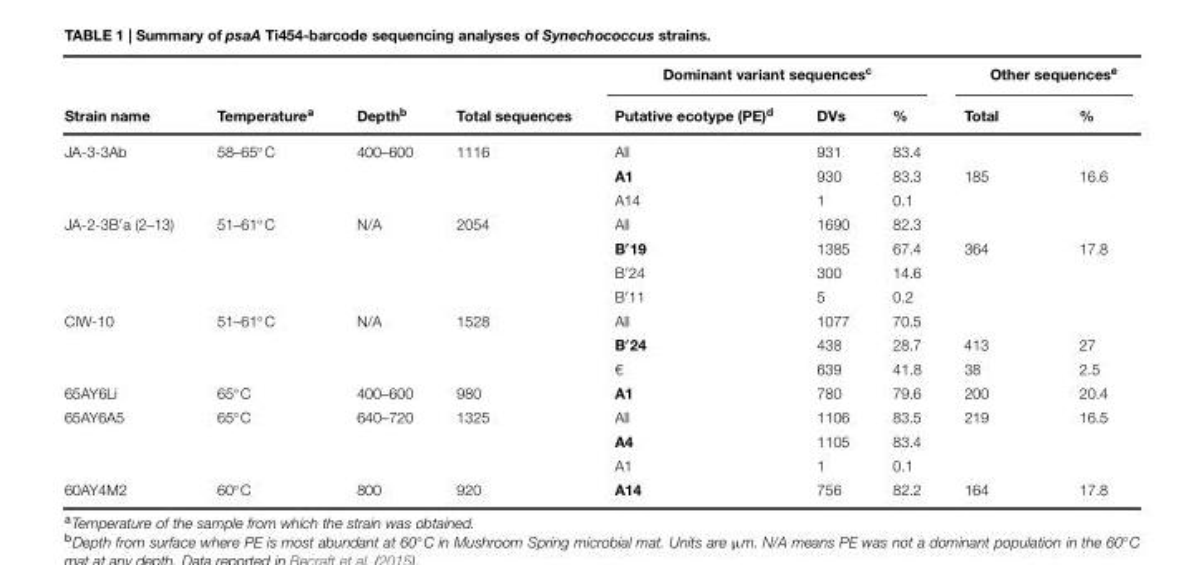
<table><thead><tr><td rowspan="2">Strain name</td><td rowspan="2">Temperature<sup>a</sup></td><td rowspan="2">Depth<sup>b</sup></td><td rowspan="2">Total sequences</td><td colspan="3">Dominant variant sequences<sup>c</sup></td><td colspan="2">Other sequences<sup>e</sup></td></tr><tr><td>Putative ecotype (PE)<sup>d</sup></td><td>DVs</td><td>%</td><td>Total</td><td>%</td></tr></thead><tbody><tr><td rowspan="3">JA-3-3Ab</td><td>58–65◦C</td><td>400–600</td><td>1116</td><td>All</td><td>931</td><td>83.4</td><td></td><td></td></tr><tr><td></td><td></td><td></td><td>A1</td><td>930</td><td>83.3</td><td>185</td><td>16.6</td></tr><tr><td></td><td></td><td></td><td>A14</td><td>1</td><td>0.1</td><td></td><td></td></tr><tr><td rowspan="4">JA-2-3B′a (2–13)</td><td>51–61◦C</td><td>N/A</td><td>2054</td><td>All</td><td>1690</td><td>82.3</td><td></td><td></td></tr><tr><td></td><td></td><td></td><td>B′19</td><td>1385</td><td>67.4</td><td>364</td><td>17.8</td></tr><tr><td></td><td></td><td></td><td>B′24</td><td>300</td><td>14.6</td><td></td><td></td></tr><tr><td></td><td></td><td></td><td>B′11</td><td>5</td><td>0.2</td><td></td><td></td></tr><tr><td rowspan="3">CIW-10</td><td>51–61◦C</td><td>N/A</td><td>1528</td><td>All</td><td>1077</td><td>70.5</td><td></td><td></td></tr><tr><td></td><td></td><td></td><td>B′24</td><td>438</td><td>28.7</td><td>413</td><td>27</td></tr><tr><td></td><td></td><td></td><td>€</td><td>639</td><td>41.8</td><td>38</td><td>2.5</td></tr><tr><td>65AY6Li</td><td>65◦C</td><td>400–600</td><td>980</td><td>A1</td><td>780</td><td>79.6</td><td>200</td><td>20.4</td></tr><tr><td rowspan="3">65AY6A5</td><td>65◦C</td><td>640–720</td><td>1325</td><td>All</td><td>1106</td><td>83.5</td><td>219</td><td>16.5</td></tr><tr><td></td><td></td><td></td><td>A4</td><td>1105</td><td>83.4</td><td></td><td></td></tr><tr><td></td><td></td><td></td><td>A1</td><td>1</td><td>0.1</td><td></td><td></td></tr><tr><td>60AY4M2</td><td>60◦C</td><td>800</td><td>920</td><td>A14</td><td>756</td><td>82.2</td><td>164</td><td>17.8</td></tr></tbody></table>